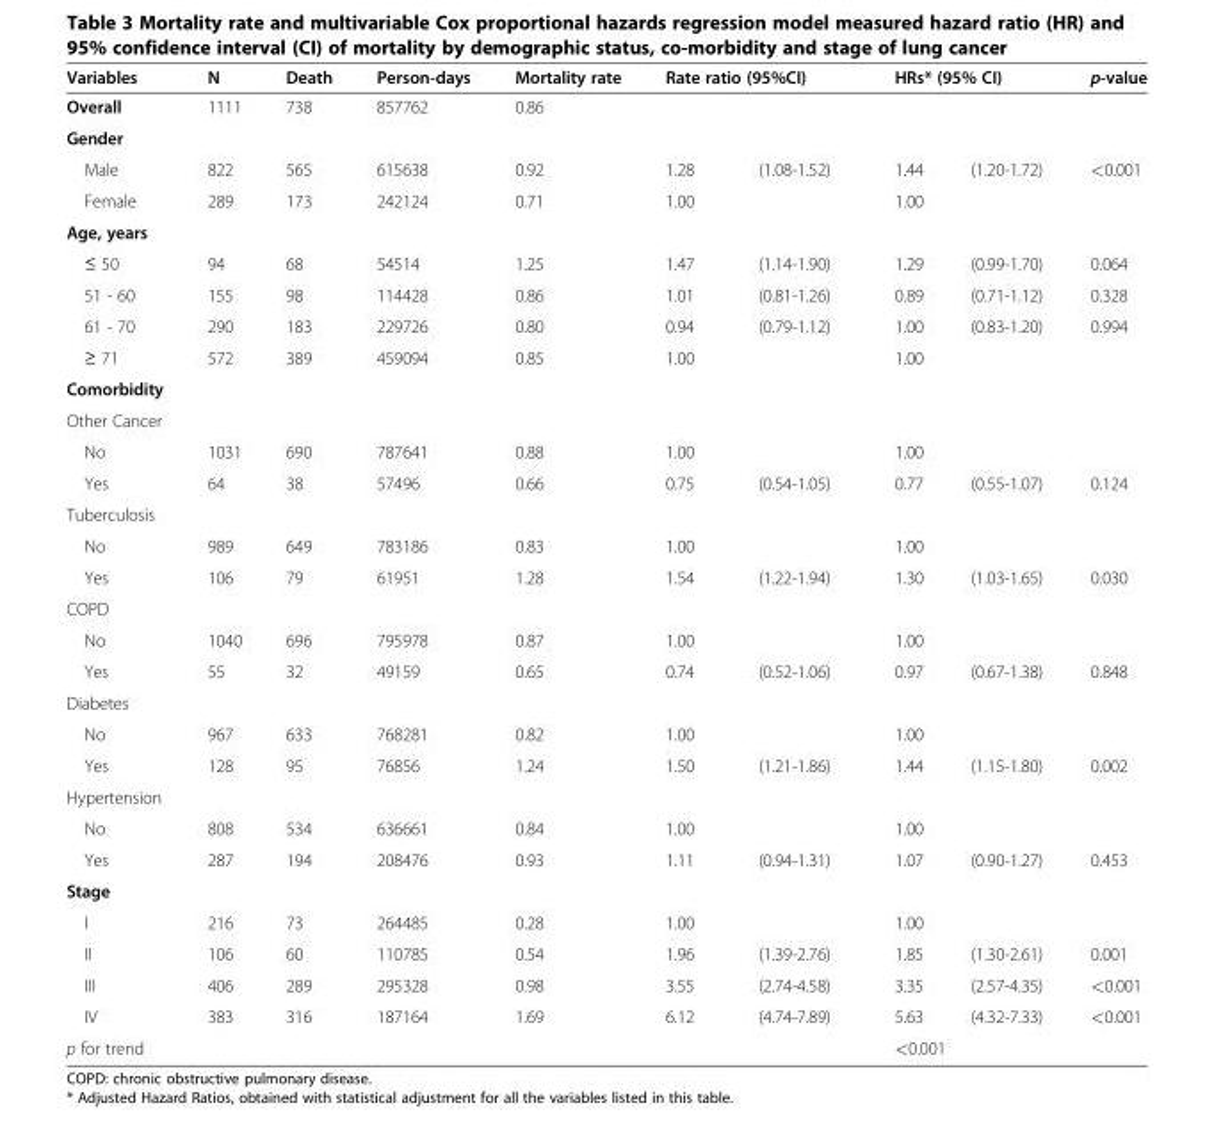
<table><thead><tr><td rowspan="2">Variables Overall</td><td rowspan="2">N 1111</td><td rowspan="2">Death 738</td><td rowspan="2">Person-days 857762</td><td rowspan="2">Mortality rate 0.86</td><td colspan="2">Rate ratio (95%CI)</td><td colspan="2">HRs* (95% CI)</td><td rowspan="2">p-value</td></tr><tr><td></td><td></td><td></td><td></td></tr></thead><tbody><tr><td colspan="10">Gender</td></tr><tr><td>Male</td><td>822</td><td>565</td><td>615638</td><td>0.92</td><td>1.28</td><td>(1.08-1.52)</td><td>1.44</td><td>(1.20-1.72)</td><td>&lt;0.001</td></tr><tr><td>Female</td><td>289</td><td>173</td><td>242124</td><td>0.71</td><td>1.00</td><td></td><td>1.00</td><td></td><td></td></tr><tr><td colspan="10">Age, years</td></tr><tr><td>≤ 50</td><td>94</td><td>68</td><td>54514</td><td>1.25</td><td>1.47</td><td>(1.14-1.90)</td><td>1.29</td><td>(0.99-1.70)</td><td>0.064</td></tr><tr><td>51 - 60</td><td>155</td><td>98</td><td>114428</td><td>0.86</td><td>1.01</td><td>(0.81-1.26)</td><td>0.89</td><td>(0.71-1.12)</td><td>0.328</td></tr><tr><td>61 - 70</td><td>290</td><td>183</td><td>229726</td><td>0.80</td><td>0.94</td><td>(0.79-1.12)</td><td>1.00</td><td>(0.83-1.20)</td><td>0.994</td></tr><tr><td>≥ 71</td><td>572</td><td>389</td><td>459094</td><td>0.85</td><td>1.00</td><td></td><td>1.00</td><td></td><td></td></tr><tr><td colspan="10">Comorbidity</td></tr><tr><td colspan="10">Other Cancer</td></tr><tr><td>No</td><td>1031</td><td>690</td><td>787641</td><td>0.88</td><td>1.00</td><td></td><td>1.00</td><td></td><td></td></tr><tr><td>Yes</td><td>64</td><td>38</td><td>57496</td><td>0.66</td><td>0.75</td><td>(0.54-1.05)</td><td>0.77</td><td>(0.55-1.07)</td><td>0.124</td></tr><tr><td colspan="10">Tuberculosis</td></tr><tr><td>No</td><td>989</td><td>649</td><td>783186</td><td>0.83</td><td>1.00</td><td></td><td>1.00</td><td></td><td></td></tr><tr><td>Yes</td><td>106</td><td>79</td><td>61951</td><td>1.28</td><td>1.54</td><td>(1.22-1.94)</td><td>1.30</td><td>(1.03-1.65)</td><td>0.030</td></tr><tr><td colspan="10">COPD</td></tr><tr><td>No</td><td>1040</td><td>696</td><td>795978</td><td>0.87</td><td>1.00</td><td></td><td>1.00</td><td></td><td></td></tr><tr><td>Yes</td><td>55</td><td>32</td><td>49159</td><td>0.65</td><td>0.74</td><td>(0.52-1.06)</td><td>0.97</td><td>(0.67-1.38)</td><td>0.848</td></tr><tr><td colspan="10">Diabetes</td></tr><tr><td>No</td><td>967</td><td>633</td><td>768281</td><td>0.82</td><td>1.00</td><td></td><td>1.00</td><td></td><td></td></tr><tr><td>Yes</td><td>128</td><td>95</td><td>76856</td><td>1.24</td><td>1.50</td><td>(1.21-1.86)</td><td>1.44</td><td>(1.15-1.80)</td><td>0.002</td></tr><tr><td colspan="10">Hypertension</td></tr><tr><td>No</td><td>808</td><td>534</td><td>636661</td><td>0.84</td><td>1.00</td><td></td><td>1.00</td><td></td><td></td></tr><tr><td>Yes</td><td>287</td><td>194</td><td>208476</td><td>0.93</td><td>1.11</td><td>(0.94-1.31)</td><td>1.07</td><td>(0.90-1.27)</td><td>0.453</td></tr><tr><td colspan="10">Stage</td></tr><tr><td>I</td><td>216</td><td>73</td><td>264485</td><td>0.28</td><td>1.00</td><td></td><td>1.00</td><td></td><td></td></tr><tr><td>II</td><td>106</td><td>60</td><td>110785</td><td>0.54</td><td>1.96</td><td>(1.39-2.76)</td><td>1.85</td><td>(1.30-2.61)</td><td>0.001</td></tr><tr><td>III</td><td>406</td><td>289</td><td>295328</td><td>0.98</td><td>3.55</td><td>(2.74-4.58)</td><td>3.35</td><td>(2.57-4.35)</td><td>&lt;0.001</td></tr><tr><td>IV</td><td>383</td><td>316</td><td>187164</td><td>1.69</td><td>6.12</td><td>(4.74-7.89)</td><td>5.63</td><td>(4.32-7.33)</td><td>&lt;0.001</td></tr><tr><td>p for trend</td><td></td><td></td><td></td><td></td><td></td><td></td><td colspan="2">&lt;0.001</td><td></td></tr></tbody></table>